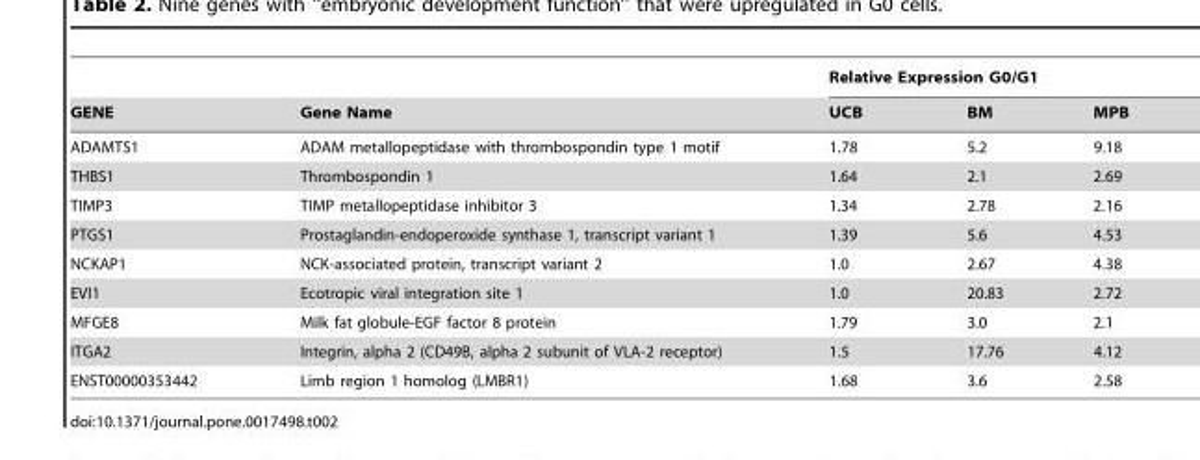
<table><thead><tr><td rowspan="2">GENE</td><td rowspan="2">Gene Name</td><td colspan="3">Relative Expression G0/G1</td></tr><tr><td>UCB</td><td>BM</td><td>MPB</td></tr></thead><tbody><tr><td>ADAMTS1</td><td>ADAM metallopeptidase with thrombospondin type 1 motif</td><td>1.78</td><td>5.2</td><td>9.18</td></tr><tr><td>THBS1</td><td>Thrombospondin 1</td><td>1.64</td><td>2.1</td><td>2.69</td></tr><tr><td>TIMP3</td><td>TIMP metallopeptidase inhibitor 3</td><td>1.34</td><td>2.78</td><td>2.16</td></tr><tr><td>PTGS1</td><td>Prostaglandin-endoperoxide synthase 1, transcript variant 1</td><td>1.39</td><td>5.6</td><td>4.53</td></tr><tr><td>NCKAP1</td><td>NCK-associated protein, transcript variant 2</td><td>1.0</td><td>2.67</td><td>4.38</td></tr><tr><td>EVI1</td><td>Ecotropic viral integration site 1</td><td>1.0</td><td>20.83</td><td>2.72</td></tr><tr><td>MFGE8</td><td>Milk fat globule-EGF factor 8 protein</td><td>1.79</td><td>3.0</td><td>2.1</td></tr><tr><td>ITGA2</td><td>Integrin, alpha 2 (CD49B, alpha 2 subunit of VLA-2 receptor)</td><td>1.5</td><td>17.76</td><td>4.12</td></tr><tr><td>ENST00000353442</td><td>Limb region 1 homolog (LMBR1)</td><td>1.68</td><td>3.6</td><td>2.58</td></tr></tbody></table>